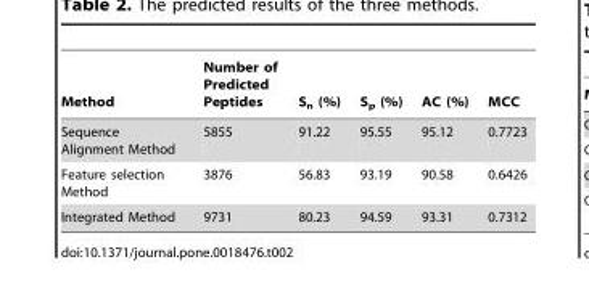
<table><thead><tr><td>Method</td><td>Number of Predicted Peptides</td><td>S<sub>n</sub> (%)</td><td>S<sub>p</sub> (%)</td><td>AC (%)</td><td>MCC</td></tr></thead><tbody><tr><td>Sequence Alignment Method</td><td>5855</td><td>91.22</td><td>95.55</td><td>95.12</td><td>0.7723</td></tr><tr><td>Feature selection Method</td><td>3876</td><td>56.83</td><td>93.19</td><td>90.58</td><td>0.6426</td></tr><tr><td>Integrated Method</td><td>9731</td><td>80.23</td><td>94.59</td><td>93.31</td><td>0.7312</td></tr></tbody></table>